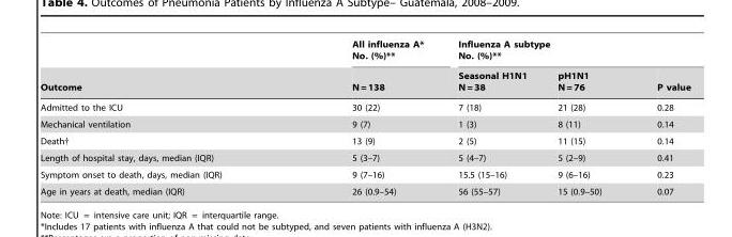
<table><thead><tr><td rowspan="2">Outcome</td><td rowspan="2">All influenza A* No. (%)** N = 138</td><td colspan="3">Influenza A subtype No. (%)**</td></tr><tr><td>Seasonal H1N1 N = 38</td><td>pH1N1 N = 76</td><td>P value</td></tr></thead><tbody><tr><td>Admitted to the ICU</td><td>30 (22)</td><td>7 (18)</td><td>21 (28)</td><td>0.28</td></tr><tr><td>Mechanical ventilation</td><td>9 (7)</td><td>1 (3)</td><td>8 (11)</td><td>0.14</td></tr><tr><td>Death†</td><td>13 (9)</td><td>2 (5)</td><td>11 (15)</td><td>0.14</td></tr><tr><td>Length of hospital stay, days, median (IQR)</td><td>5 (3–7)</td><td>5 (4–7)</td><td>5 (2–9)</td><td>0.41</td></tr><tr><td>Symptom onset to death, days, median (IQR)</td><td>9 (7–16)</td><td>15.5 (15–16)</td><td>9 (6–16)</td><td>0.23</td></tr><tr><td>Age in years at death, median (IQR)</td><td>26 (0.9–54)</td><td>56 (55–57)</td><td>15 (0.9–50)</td><td>0.07</td></tr></tbody></table>